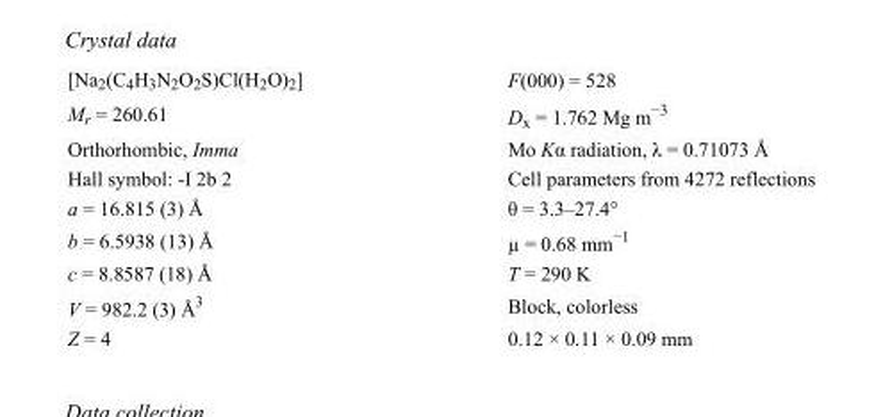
<table><tbody><tr><td>[Na<sub>2</sub>(C<sub>4</sub>H<sub>3</sub>N<sub>2</sub>O<sub>2</sub>S)Cl(H<sub>2</sub>O)<sub>2</sub>]</td><td>F(000) = 528</td></tr><tr><td>M<sub>r</sub> = 260.61</td><td>D<sub>x</sub> = 1.762 Mg m<sup>−3</sup></td></tr><tr><td>Orthorhombic, Imma</td><td>Mo Kα radiation, λ = 0.71073 Å</td></tr><tr><td>Hall symbol: -I 2b 2</td><td>Cell parameters from 4272 reflections</td></tr><tr><td>a = 16.815 (3) Å</td><td>θ = 3.3–27.4°</td></tr><tr><td>b = 6.5938 (13) Å</td><td>µ = 0.68 mm<sup>−1</sup></td></tr><tr><td>c = 8.8587 (18) Å</td><td>T = 290 K</td></tr><tr><td>V = 982.2 (3) Å<sup>3</sup></td><td>Block, colorless</td></tr><tr><td>Z = 4</td><td>0.12 × 0.11 × 0.09 mm</td></tr></tbody></table>